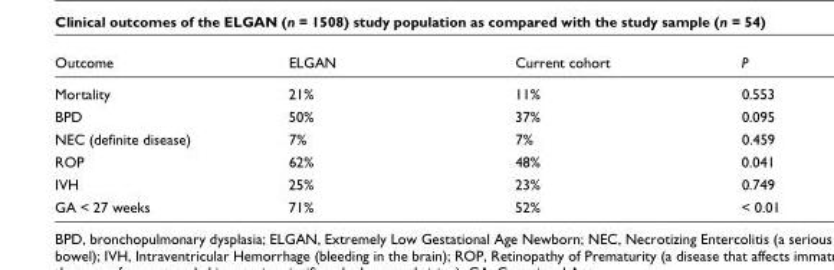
<table><thead><tr><td>Outcome</td><td>ELGAN</td><td>Current cohort</td><td>P</td></tr></thead><tbody><tr><td>Mortality</td><td>21%</td><td>11%</td><td>0.553</td></tr><tr><td>BPD</td><td>50%</td><td>37%</td><td>0.095</td></tr><tr><td>NEC (definite disease)</td><td>7%</td><td>7%</td><td>0.459</td></tr><tr><td>ROP</td><td>62%</td><td>48%</td><td>0.041</td></tr><tr><td>IVH</td><td>25%</td><td>23%</td><td>0.749</td></tr><tr><td>GA &lt; 27 weeks</td><td>71%</td><td>52%</td><td>&lt; 0.01</td></tr></tbody></table>